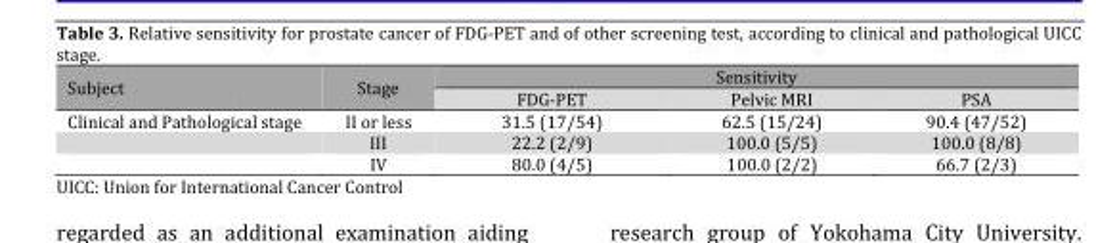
<table><thead><tr><td rowspan="2">Subject</td><td rowspan="2">Stage</td><td colspan="3">Sensitivity</td></tr><tr><td>FDG-PET</td><td>Pelvic MRI</td><td>PSA</td></tr></thead><tbody><tr><td rowspan="3">Clinical and Pathological stage</td><td>II or less</td><td>31.5 (17/54)</td><td>62.5 (15/24)</td><td>90.4 (47/52)</td></tr><tr><td>III</td><td>22.2 (2/9)</td><td>100.0 (5/5)</td><td>100.0 (8/8)</td></tr><tr><td>IV</td><td>80.0 (4/5)</td><td>100.0 (2/2)</td><td>66.7 (2/3)</td></tr></tbody></table>